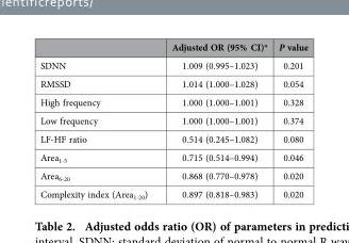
<table><thead><tr><td></td><td>Adjusted OR (95% CI)*</td><td>P value</td></tr></thead><tbody><tr><td>SDNN</td><td>1.009 (0.995–1.023)</td><td>0.201</td></tr><tr><td>RMSSD</td><td>1.014 (1.000–1.028)</td><td>0.054</td></tr><tr><td>High frequency</td><td>1.000 (1.000–1.001)</td><td>0.328</td></tr><tr><td>Low frequency</td><td>1.000 (1.000–1.001)</td><td>0.374</td></tr><tr><td>LF-HF ratio</td><td>0.514 (0.245–1.082)</td><td>0.080</td></tr><tr><td>Area<sub>1-5</sub></td><td>0.715 (0.514–0.994)</td><td>0.046</td></tr><tr><td>Area<sub>6-20</sub></td><td>0.868 (0.770–0.978)</td><td>0.020</td></tr><tr><td>Complexity index (Area<sub>1-20</sub>)</td><td>0.897 (0.818–0.983)</td><td>0.020</td></tr></tbody></table>